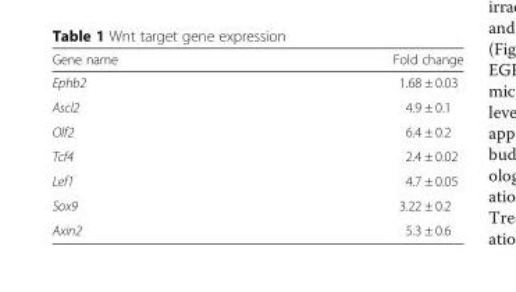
<table><thead><tr><td>Gene name</td><td>Fold change</td></tr></thead><tbody><tr><td>Ephb2</td><td>1.68 ± 0.03</td></tr><tr><td>Ascl2</td><td>4.9 ± 0.1</td></tr><tr><td>Olf2</td><td>6.4 ± 0.2</td></tr><tr><td>Tcf4</td><td>2.4 ± 0.02</td></tr><tr><td>Lef1</td><td>4.7 ± 0.05</td></tr><tr><td>Sox9</td><td>3.22 ± 0.2</td></tr><tr><td>Axin2</td><td>5.3 ± 0.6</td></tr></tbody></table>